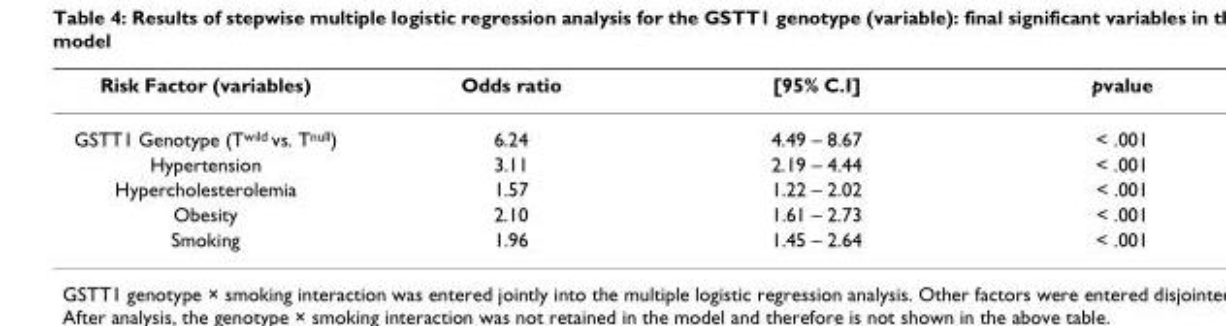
<table><thead><tr><td>Risk Factor (variables)</td><td>Odds ratio</td><td>[95% C.I]</td><td>pvalue</td></tr></thead><tbody><tr><td>GSTT1 Genotype (T<sup>wild</sup> vs. T<sup>null</sup>)</td><td>6.24</td><td>4.49 – 8.67</td><td>&lt; .001</td></tr><tr><td>Hypertension</td><td>3.11</td><td>2.19 – 4.44</td><td>&lt; .001</td></tr><tr><td>Hypercholesterolemia</td><td>1.57</td><td>1.22 – 2.02</td><td>&lt; .001</td></tr><tr><td>Obesity</td><td>2.10</td><td>1.61 – 2.73</td><td>&lt; .001</td></tr><tr><td>Smoking</td><td>1.96</td><td>1.45 – 2.64</td><td>&lt; .001</td></tr></tbody></table>